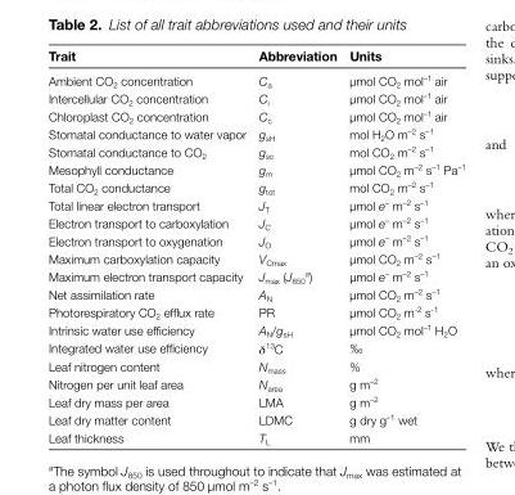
<table><thead><tr><td>Trait</td><td>Abbreviation</td><td>Units</td></tr></thead><tbody><tr><td>Ambient CO<sub>2</sub> concentration</td><td>C<sub>a</sub></td><td>µmol CO<sub>2</sub> mol<sup>–1</sup> air</td></tr><tr><td>Intercellular CO<sub>2</sub> concentration</td><td>C<sub>i</sub></td><td>µmol CO<sub>2</sub> mol<sup>–1</sup> air</td></tr><tr><td>Chloroplast CO<sub>2</sub> concentration</td><td>C<sub>c</sub></td><td>µmol CO<sub>2</sub> mol<sup>–1</sup> air</td></tr><tr><td>Stomatal conductance to water vapor</td><td>g<sub>sH</sub></td><td>mol H<sub>2</sub>O m<sup>–2</sup> s<sup>–1</sup></td></tr><tr><td>Stomatal conductance to CO<sub>2</sub></td><td>g<sub>sc</sub></td><td>mol CO<sub>2</sub> m<sup>–2</sup> s<sup>–1</sup></td></tr><tr><td>Mesophyll conductance</td><td>g<sub>m</sub></td><td>µmol CO<sub>2</sub> m<sup>–2</sup> s<sup>–1</sup> Pa<sup>–1</sup></td></tr><tr><td>Total CO<sub>2</sub> conductance</td><td>g<sub>tot</sub></td><td>mol CO<sub>2</sub> m<sup>–2</sup> s<sup>–1</sup></td></tr><tr><td>Total linear electron transport</td><td>J<sub>T</sub></td><td>µmol e<sup>–</sup> m<sup>–2</sup> s<sup>–1</sup></td></tr><tr><td>Electron transport to carboxylation</td><td>J<sub>C</sub></td><td>µmol e<sup>–</sup> m<sup>–2</sup> s<sup>–1</sup></td></tr><tr><td>Electron transport to oxygenation</td><td>J<sub>O</sub></td><td>µmol e<sup>–</sup> m<sup>–2</sup> s<sup>–1</sup></td></tr><tr><td>Maximum carboxylation capacity</td><td>V<sub>Cmax</sub></td><td>µmol CO<sub>2</sub> m<sup>–2</sup> s<sup>–1</sup></td></tr><tr><td>Maximum electron transport capacity</td><td>J<sub>max</sub> (J<sub>850</sub> <sup>a</sup>)</td><td>µmol e<sup>–</sup> m<sup>–2</sup> s<sup>–1</sup></td></tr><tr><td>Net assimilation rate</td><td>A<sub>N</sub></td><td>µmol CO<sub>2</sub> m<sup>–2</sup> s<sup>–1</sup></td></tr><tr><td>Photorespiratory CO<sub>2</sub> efflux rate</td><td>PR</td><td>µmol CO<sub>2</sub> m<sup>-2</sup> s<sup>-1</sup></td></tr><tr><td>Intrinsic water use efficiency</td><td>A<sub>N</sub>/g<sub>sH</sub></td><td>µmol CO<sub>2</sub> mol<sup>–1</sup> H<sub>2</sub>O</td></tr><tr><td>Integrated water use efficiency</td><td>δ<sup>13</sup>C</td><td>‰</td></tr><tr><td>Leaf nitrogen content</td><td>N<sub>mass</sub></td><td>%</td></tr><tr><td>Nitrogen per unit leaf area</td><td>N<sub>area</sub></td><td>g m<sup>–2</sup></td></tr><tr><td>Leaf dry mass per area</td><td>LMA</td><td>g m<sup>–2</sup></td></tr><tr><td>Leaf dry matter content</td><td>LDMC</td><td>g dry g<sup>–1</sup> wet</td></tr><tr><td>Leaf thickness</td><td>T<sub>L</sub></td><td>mm</td></tr></tbody></table>